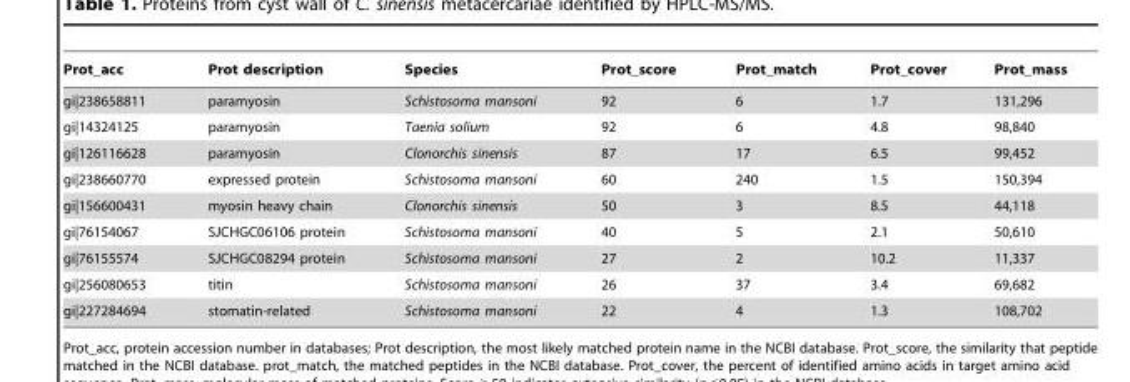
<table><thead><tr><td>Prot_acc</td><td>Prot description</td><td>Species</td><td>Prot_score</td><td>Prot_match</td><td>Prot_cover</td><td>Prot_mass</td></tr></thead><tbody><tr><td>gi|238658811</td><td>paramyosin</td><td>Schistosoma mansoni</td><td>92</td><td>6</td><td>1.7</td><td>131,296</td></tr><tr><td>gi|14324125</td><td>paramyosin</td><td>Taenia solium</td><td>92</td><td>6</td><td>4.8</td><td>98,840</td></tr><tr><td>gi|126116628</td><td>paramyosin</td><td>Clonorchis sinensis</td><td>87</td><td>17</td><td>6.5</td><td>99,452</td></tr><tr><td>gi|238660770</td><td>expressed protein</td><td>Schistosoma mansoni</td><td>60</td><td>240</td><td>1.5</td><td>150,394</td></tr><tr><td>gi|156600431</td><td>myosin heavy chain</td><td>Clonorchis sinensis</td><td>50</td><td>3</td><td>8.5</td><td>44,118</td></tr><tr><td>gi|76154067</td><td>SJCHGC06106 protein</td><td>Schistosoma mansoni</td><td>40</td><td>5</td><td>2.1</td><td>50,610</td></tr><tr><td>gi|76155574</td><td>SJCHGC08294 protein</td><td>Schistosoma mansoni</td><td>27</td><td>2</td><td>10.2</td><td>11,337</td></tr><tr><td>gi|256080653</td><td>titin</td><td>Schistosoma mansoni</td><td>26</td><td>37</td><td>3.4</td><td>69,682</td></tr><tr><td>gi|227284694</td><td>stomatin-related</td><td>Schistosoma mansoni</td><td>22</td><td>4</td><td>1.3</td><td>108,702</td></tr></tbody></table>